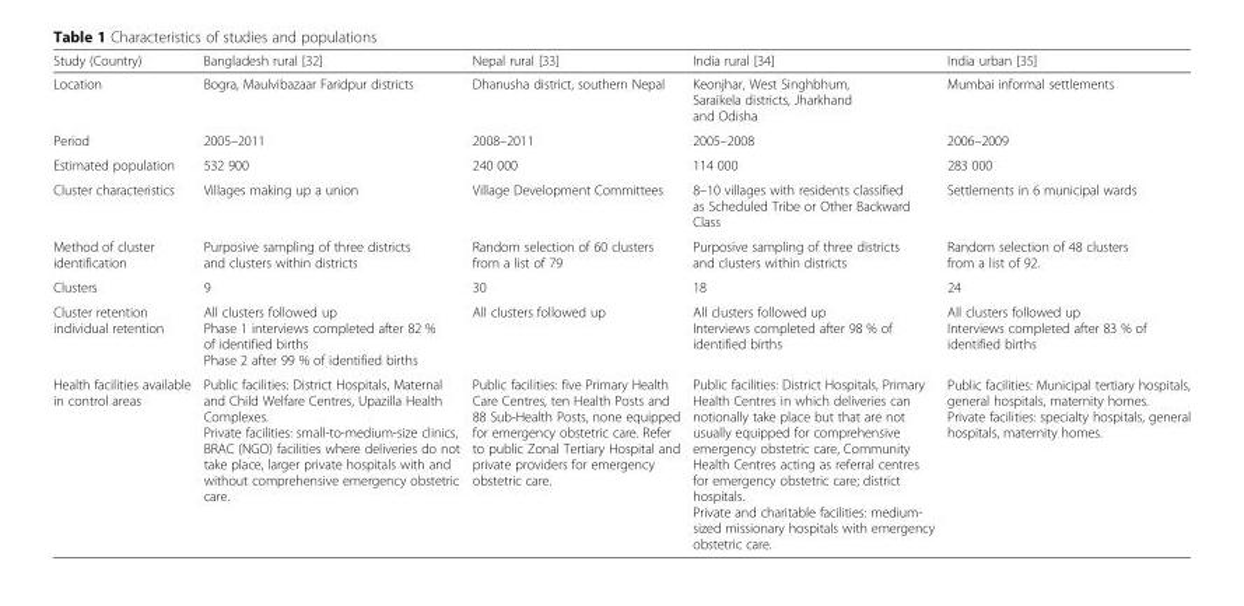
<table><thead><tr><td>Study (Country)</td><td>Bangladesh rural [32]</td><td>Nepal rural [33]</td><td>India rural [34]</td><td>India urban [35]</td></tr></thead><tbody><tr><td>Location</td><td>Bogra, Maulvibazaar Faridpur districts</td><td>Dhanusha district, southern Nepal</td><td>Keonjhar, West Singhbhum, Saraikela districts, Jharkhand and Odisha</td><td>Mumbai informal settlements</td></tr><tr><td>Period</td><td>2005–2011</td><td>2008–2011</td><td>2005–2008</td><td>2006–2009</td></tr><tr><td>Estimated population</td><td>532 900</td><td>240 000</td><td>114 000</td><td>283 000</td></tr><tr><td>Cluster characteristics</td><td>Villages making up a union</td><td>Village Development Committees</td><td>8–10 villages with residents classified as Scheduled Tribe or Other Backward Class</td><td>Settlements in 6 municipal wards</td></tr><tr><td>Method of cluster identification</td><td>Purposive sampling of three districts and clusters within districts</td><td>Random selection of 60 clusters from a list of 79</td><td>Purposive sampling of three districts and clusters within districts</td><td>Random selection of 48 clusters from a list of 92.</td></tr><tr><td>Clusters</td><td>9</td><td>30</td><td>18</td><td>24</td></tr><tr><td>Cluster retention individual retention</td><td>All clusters followed up Phase 1 interviews completed after 82 % of identified births Phase 2 after 99 % of identified births</td><td>All clusters followed up</td><td>All clusters followed up Interviews completed after 98 % of identified births</td><td>All clusters followed up Interviews completed after 83 % of identified births</td></tr><tr><td>Health facilities available in control areas</td><td>Public facilities: District Hospitals, Maternal and Child Welfare Centres, Upazilla Health Complexes. Private facilities: small-to-medium-size clinics, BRAC (NGO) facilities where deliveries do not take place, larger private hospitals with and without comprehensive emergency obstetric care.</td><td>Public facilities: five Primary Health Care Centres, ten Health Posts and 88 Sub-Health Posts, none equipped for emergency obstetric care. Refer to public Zonal Tertiary Hospital and private providers for emergency obstetric care.</td><td>Public facilities: District Hospitals, Primary Health Centres in which deliveries can notionally take place but that are not usually equipped for comprehensive emergency obstetric care, Community Health Centres acting as referral centres for emergency obstetric care; district hospitals. Private and charitable facilities: medium- sized missionary hospitals with emergency obstetric care.</td><td>Public facilities: Municipal tertiary hospitals, general hospitals, maternity homes. Private facilities: specialty hospitals, general hospitals, maternity homes.</td></tr></tbody></table>